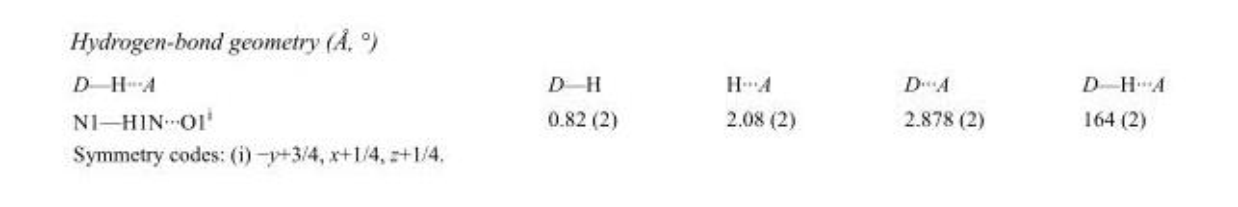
<table><tbody><tr><td>D—H···A</td><td>D—H</td><td>H···A</td><td>D···A</td><td>D—H···A</td></tr><tr><td>N1—H1N···O1<sup>i</sup></td><td>0.82 (2)</td><td>2.08 (2)</td><td>2.878 (2)</td><td>164 (2)</td></tr></tbody></table>